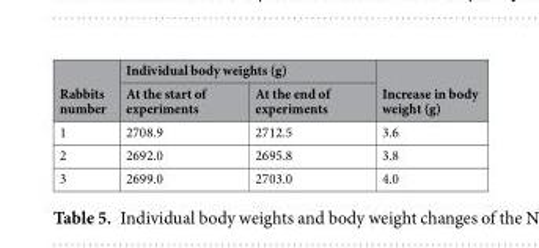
<table><thead><tr><td rowspan="2">Rabbits number</td><td colspan="2">Individual body weights (g)</td><td rowspan="2">Increase in body weight (g)</td></tr><tr><td>At the start of experiments</td><td>At the end of experiments</td></tr></thead><tbody><tr><td>1</td><td>2708.9</td><td>2712.5</td><td>3.6</td></tr><tr><td>2</td><td>2692.0</td><td>2695.8</td><td>3.8</td></tr><tr><td>3</td><td>2699.0</td><td>2703.0</td><td>4.0</td></tr></tbody></table>